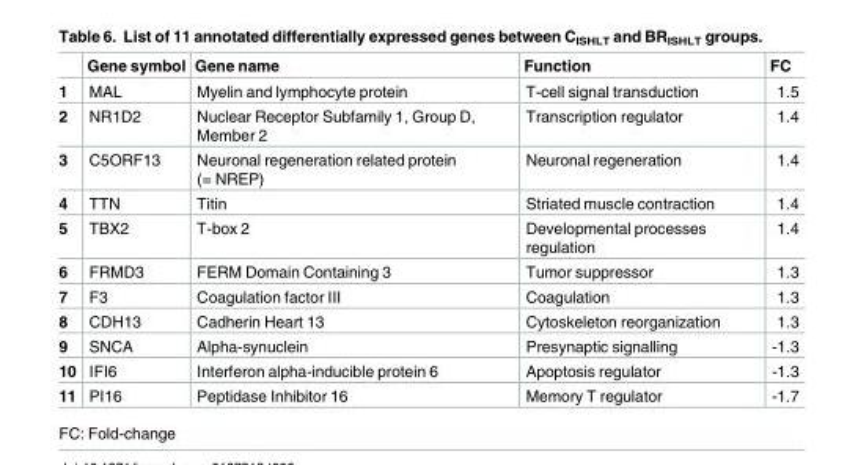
<table><thead><tr><td></td><td>Gene symbol</td><td>Gene name</td><td>Function</td><td>FC</td></tr></thead><tbody><tr><td>1</td><td>MAL</td><td>Myelin and lymphocyte protein</td><td>T-cell signal transduction</td><td>1.5</td></tr><tr><td>2</td><td>NR1D2</td><td>Nuclear Receptor Subfamily 1, Group D, Member 2</td><td>Transcription regulator</td><td>1.4</td></tr><tr><td>3</td><td>C5ORF13</td><td>Neuronal regeneration related protein (= NREP)</td><td>Neuronal regeneration</td><td>1.4</td></tr><tr><td>4</td><td>TTN</td><td>Titin</td><td>Striated muscle contraction</td><td>1.4</td></tr><tr><td>5</td><td>TBX2</td><td>T-box 2</td><td>Developmental processes regulation</td><td>1.4</td></tr><tr><td>6</td><td>FRMD3</td><td>FERM Domain Containing 3</td><td>Tumor suppressor</td><td>1.3</td></tr><tr><td>7</td><td>F3</td><td>Coagulation factor III</td><td>Coagulation</td><td>1.3</td></tr><tr><td>8</td><td>CDH13</td><td>Cadherin Heart 13</td><td>Cytoskeleton reorganization</td><td>1.3</td></tr><tr><td>9</td><td>SNCA</td><td>Alpha-synuclein</td><td>Presynaptic signalling</td><td>-1.3</td></tr><tr><td>10</td><td>IFI6</td><td>Interferon alpha-inducible protein 6</td><td>Apoptosis regulator</td><td>-1.3</td></tr><tr><td>11</td><td>PI16</td><td>Peptidase Inhibitor 16</td><td>Memory T regulator</td><td>-1.7</td></tr></tbody></table>